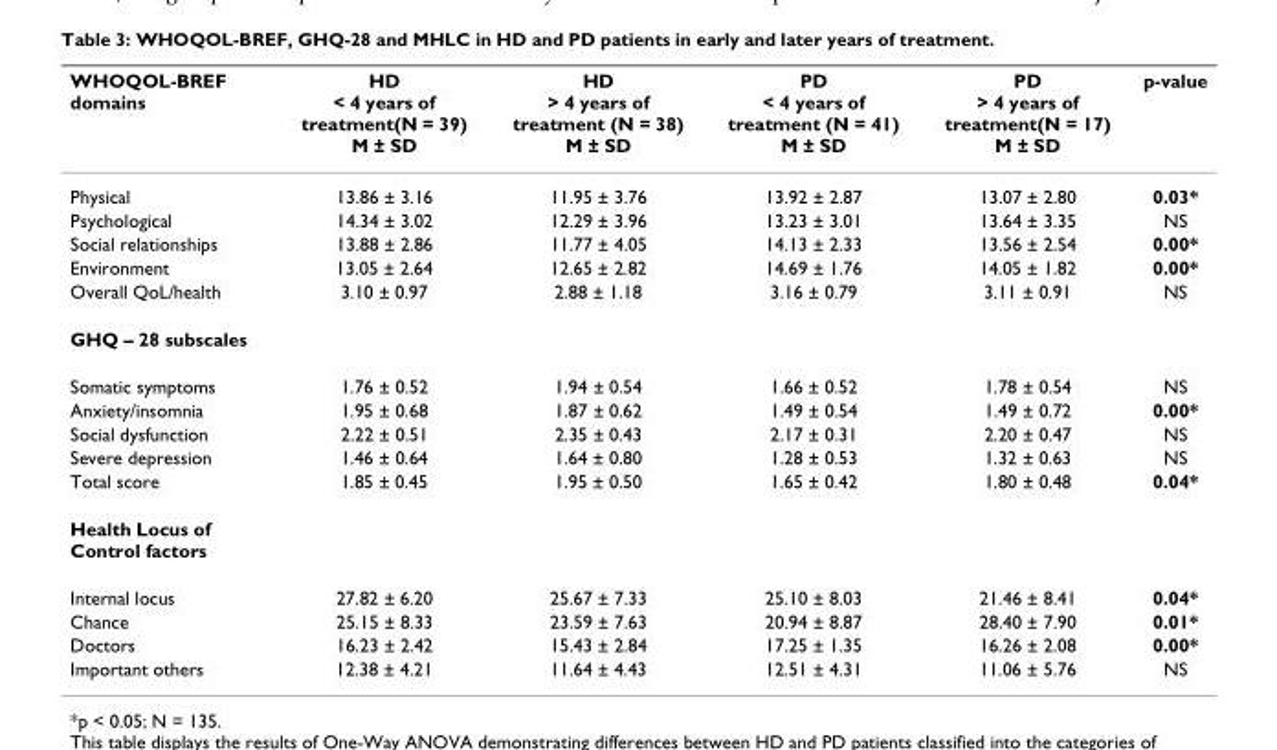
<table><thead><tr><td>WHOQOL-BREF domains</td><td>HD &lt; 4 years of treatment(N = 39) M ± SD</td><td>HD &gt; 4 years of treatment (N = 38) M ± SD</td><td>PD &lt; 4 years of treatment (N = 41) M ± SD</td><td>PD &gt; 4 years of treatment(N = 17) M ± SD</td><td>p-value</td></tr></thead><tbody><tr><td>Physical</td><td>13.86 ± 3.16</td><td>11.95 ± 3.76</td><td>13.92 ± 2.87</td><td>13.07 ± 2.80</td><td>0.03*</td></tr><tr><td>Psychological</td><td>14.34 ± 3.02</td><td>12.29 ± 3.96</td><td>13.23 ± 3.01</td><td>13.64 ± 3.35</td><td>NS</td></tr><tr><td>Social relationships</td><td>13.88 ± 2.86</td><td>11.77 ± 4.05</td><td>14.13 ± 2.33</td><td>13.56 ± 2.54</td><td>0.00*</td></tr><tr><td>Environment</td><td>13.05 ± 2.64</td><td>12.65 ± 2.82</td><td>14.69 ± 1.76</td><td>14.05 ± 1.82</td><td>0.00*</td></tr><tr><td>Overall QoL/health</td><td>3.10 ± 0.97</td><td>2.88 ± 1.18</td><td>3.16 ± 0.79</td><td>3.11 ± 0.91</td><td>NS</td></tr><tr><td colspan="6">GHQ – 28 subscales</td></tr><tr><td>Somatic symptoms</td><td>1.76 ± 0.52</td><td>1.94 ± 0.54</td><td>1.66 ± 0.52</td><td>1.78 ± 0.54</td><td>NS</td></tr><tr><td>Anxiety/insomnia</td><td>1.95 ± 0.68</td><td>1.87 ± 0.62</td><td>1.49 ± 0.54</td><td>1.49 ± 0.72</td><td>0.00*</td></tr><tr><td>Social dysfunction</td><td>2.22 ± 0.51</td><td>2.35 ± 0.43</td><td>2.17 ± 0.31</td><td>2.20 ± 0.47</td><td>NS</td></tr><tr><td>Severe depression</td><td>1.46 ± 0.64</td><td>1.64 ± 0.80</td><td>1.28 ± 0.53</td><td>1.32 ± 0.63</td><td>NS</td></tr><tr><td>Total score</td><td>1.85 ± 0.45</td><td>1.95 ± 0.50</td><td>1.65 ± 0.42</td><td>1.80 ± 0.48</td><td>0.04*</td></tr><tr><td colspan="6">Health Locus of Control factors</td></tr><tr><td>Internal locus</td><td>27.82 ± 6.20</td><td>25.67 ± 7.33</td><td>25.10 ± 8.03</td><td>21.46 ± 8.41</td><td>0.04*</td></tr><tr><td>Chance</td><td>25.15 ± 8.33</td><td>23.59 ± 7.63</td><td>20.94 ± 8.87</td><td>28.40 ± 7.90</td><td>0.01*</td></tr><tr><td>Doctors</td><td>16.23 ± 2.42</td><td>15.43 ± 2.84</td><td>17.25 ± 1.35</td><td>16.26 ± 2.08</td><td>0.00*</td></tr><tr><td>Important others</td><td>12.38 ± 4.21</td><td>11.64 ± 4.43</td><td>12.51 ± 4.31</td><td>11.06 ± 5.76</td><td>NS</td></tr></tbody></table>